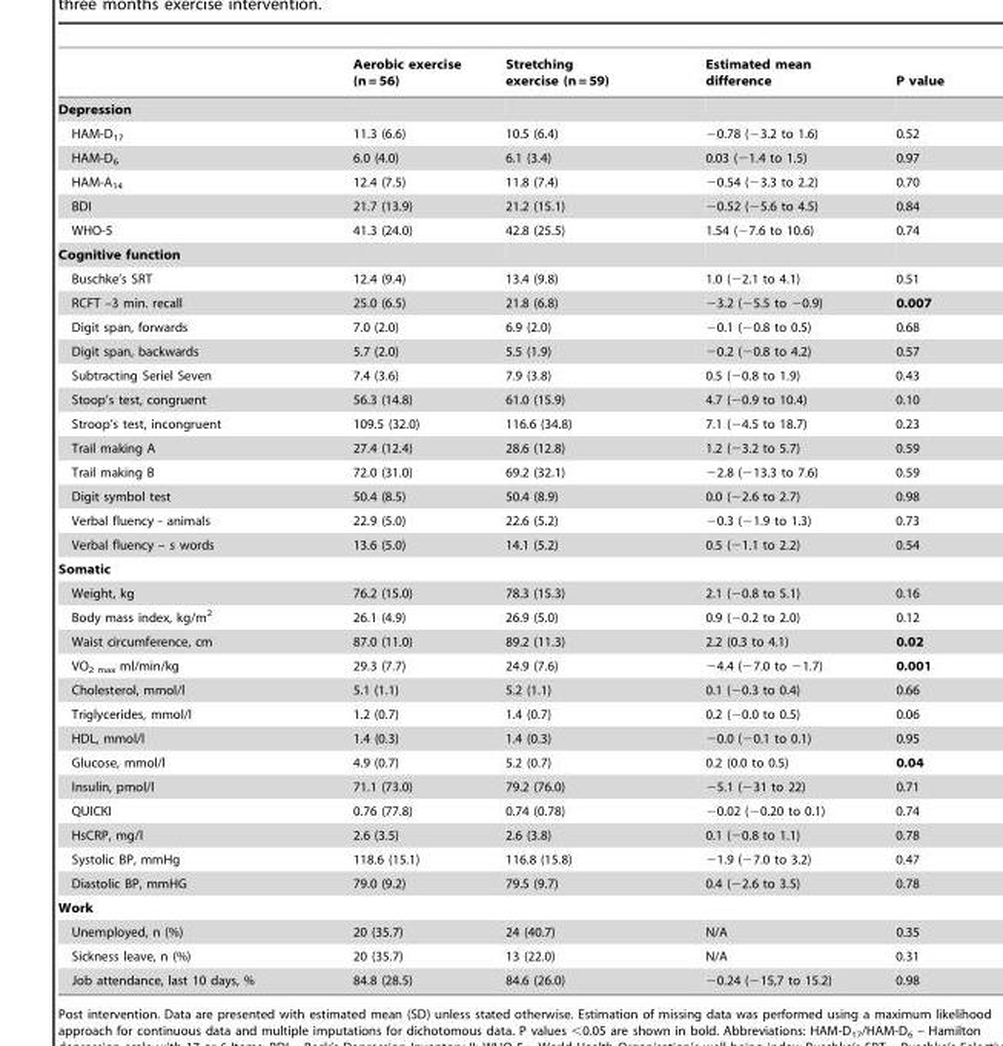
<table><thead><tr><td></td><td>Aerobic exercise (n = 56)</td><td>Stretching exercise (n = 59)</td><td>Estimated mean difference</td><td>P value</td></tr></thead><tbody><tr><td colspan="5">Depression</td></tr><tr><td>HAM-D<sub>17</sub></td><td>11.3 (6.6)</td><td>10.5 (6.4)</td><td>−0.78 (−3.2 to 1.6)</td><td>0.52</td></tr><tr><td>HAM-D<sub>6</sub></td><td>6.0 (4.0)</td><td>6.1 (3.4)</td><td>0.03 (−1.4 to 1.5)</td><td>0.97</td></tr><tr><td>HAM-A<sub>14</sub></td><td>12.4 (7.5)</td><td>11.8 (7.4)</td><td>−0.54 (−3.3 to 2.2)</td><td>0.70</td></tr><tr><td>BDI</td><td>21.7 (13.9)</td><td>21.2 (15.1)</td><td>−0.52 (−5.6 to 4.5)</td><td>0.84</td></tr><tr><td>WHO-5</td><td>41.3 (24.0)</td><td>42.8 (25.5)</td><td>1.54 (−7.6 to 10.6)</td><td>0.74</td></tr><tr><td colspan="5">Cognitive function</td></tr><tr><td>Buschke’s SRT</td><td>12.4 (9.4)</td><td>13.4 (9.8)</td><td>1.0 (−2.1 to 4.1)</td><td>0.51</td></tr><tr><td>RCFT –3 min. recall</td><td>25.0 (6.5)</td><td>21.8 (6.8)</td><td>−3.2 (−5.5 to −0.9)</td><td>0.007</td></tr><tr><td>Digit span, forwards</td><td>7.0 (2.0)</td><td>6.9 (2.0)</td><td>−0.1 (−0.8 to 0.5)</td><td>0.68</td></tr><tr><td>Digit span, backwards</td><td>5.7 (2.0)</td><td>5.5 (1.9)</td><td>−0.2 (−0.8 to 4.2)</td><td>0.57</td></tr><tr><td>Subtracting Seriel Seven</td><td>7.4 (3.6)</td><td>7.9 (3.8)</td><td>0.5 (−0.8 to 1.9)</td><td>0.43</td></tr><tr><td>Stoop’s test, congruent</td><td>56.3 (14.8)</td><td>61.0 (15.9)</td><td>4.7 (−0.9 to 10.4)</td><td>0.10</td></tr><tr><td>Stroop’s test, incongruent</td><td>109.5 (32.0)</td><td>116.6 (34.8)</td><td>7.1 (−4.5 to 18.7)</td><td>0.23</td></tr><tr><td>Trail making A</td><td>27.4 (12.4)</td><td>28.6 (12.8)</td><td>1.2 (−3.2 to 5.7)</td><td>0.59</td></tr><tr><td>Trail making B</td><td>72.0 (31.0)</td><td>69.2 (32.1)</td><td>−2.8 (−13.3 to 7.6)</td><td>0.59</td></tr><tr><td>Digit symbol test</td><td>50.4 (8.5)</td><td>50.4 (8.9)</td><td>0.0 (−2.6 to 2.7)</td><td>0.98</td></tr><tr><td>Verbal fluency - animals</td><td>22.9 (5.0)</td><td>22.6 (5.2)</td><td>−0.3 (−1.9 to 1.3)</td><td>0.73</td></tr><tr><td>Verbal fluency – s words</td><td>13.6 (5.0)</td><td>14.1 (5.2)</td><td>0.5 (−1.1 to 2.2)</td><td>0.54</td></tr><tr><td colspan="5">Somatic</td></tr><tr><td>Weight, kg</td><td>76.2 (15.0)</td><td>78.3 (15.3)</td><td>2.1 (−0.8 to 5.1)</td><td>0.16</td></tr><tr><td>Body mass index, kg/m<sup>2</sup></td><td>26.1 (4.9)</td><td>26.9 (5.0)</td><td>0.9 (−0.2 to 2.0)</td><td>0.12</td></tr><tr><td>Waist circumference, cm</td><td>87.0 (11.0)</td><td>89.2 (11.3)</td><td>2.2 (0.3 to 4.1)</td><td>0.02</td></tr><tr><td>VO<sub>2 max</sub> ml/min/kg</td><td>29.3 (7.7)</td><td>24.9 (7.6)</td><td>−4.4 (−7.0 to −1.7)</td><td>0.001</td></tr><tr><td>Cholesterol, mmol/l</td><td>5.1 (1.1)</td><td>5.2 (1.1)</td><td>0.1 (−0.3 to 0.4)</td><td>0.66</td></tr><tr><td>Triglycerides, mmol/l</td><td>1.2 (0.7)</td><td>1.4 (0.7)</td><td>0.2 (−0.0 to 0.5)</td><td>0.06</td></tr><tr><td>HDL, mmol/l</td><td>1.4 (0.3)</td><td>1.4 (0.3)</td><td>−0.0 (−0.1 to 0.1)</td><td>0.95</td></tr><tr><td>Glucose, mmol/l</td><td>4.9 (0.7)</td><td>5.2 (0.7)</td><td>0.2 (0.0 to 0.5)</td><td>0.04</td></tr><tr><td>Insulin, pmol/l</td><td>71.1 (73.0)</td><td>79.2 (76.0)</td><td>−5.1 (−31 to 22)</td><td>0.71</td></tr><tr><td>QUICKI</td><td>0.76 (77.8)</td><td>0.74 (0.78)</td><td>−0.02 (−0.20 to 0.1)</td><td>0.74</td></tr><tr><td>HsCRP, mg/l</td><td>2.6 (3.5)</td><td>2.6 (3.8)</td><td>0.1 (−0.8 to 1.1)</td><td>0.78</td></tr><tr><td>Systolic BP, mmHg</td><td>118.6 (15.1)</td><td>116.8 (15.8)</td><td>−1.9 (−7.0 to 3.2)</td><td>0.47</td></tr><tr><td>Diastolic BP, mmHG</td><td>79.0 (9.2)</td><td>79.5 (9.7)</td><td>0.4 (−2.6 to 3.5)</td><td>0.78</td></tr><tr><td colspan="5">Work</td></tr><tr><td>Unemployed, n (%)</td><td>20 (35.7)</td><td>24 (40.7)</td><td>N/A</td><td>0.35</td></tr><tr><td>Sickness leave, n (%)</td><td>20 (35.7)</td><td>13 (22.0)</td><td>N/A</td><td>0.31</td></tr><tr><td>Job attendance, last 10 days, %</td><td>84.8 (28.5)</td><td>84.6 (26.0)</td><td>−0.24 (−15,7 to 15.2)</td><td>0.98</td></tr></tbody></table>